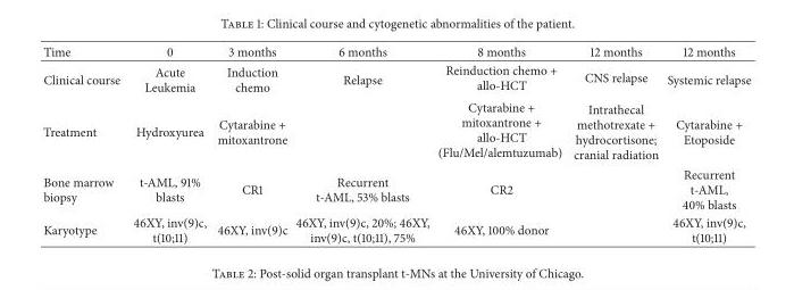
<table><thead><tr><td>Time</td><td>0</td><td>3 months</td><td>6 months</td><td>8 months</td><td>12 months</td><td>12 months</td></tr></thead><tbody><tr><td>Clinical course</td><td>Acute Leukemia</td><td>Induction chemo</td><td>Relapse</td><td>Reinduction chemo + allo-HCT</td><td>CNS relapse</td><td>Systemic relapse</td></tr><tr><td>Treatment</td><td>Hydroxyurea</td><td>Cytarabine + mitoxantrone</td><td></td><td>Cytarabine + mitoxantrone + allo-HCT (Flu/Mel/alemtuzumab)</td><td>Intrathecal methotrexate + hydrocortisone; cranial radiation</td><td>Cytarabine + Etoposide</td></tr><tr><td>Bone marrow biopsy</td><td>t-AML, 91% blasts</td><td>CR1</td><td>Recurrent t-AML, 53% blasts</td><td>CR2</td><td></td><td>Recurrent t-AML, 40% blasts</td></tr><tr><td>Karyotype</td><td>46XY, inv(9)c, t(10;11)</td><td>46XY, inv(9)c</td><td>46XY, inv(9)c, 20%; 46XY, inv(9)c, t(10;11), 75%</td><td>46XY, 100% donor</td><td></td><td>46XY, inv(9)c, t(10;11)</td></tr></tbody></table>